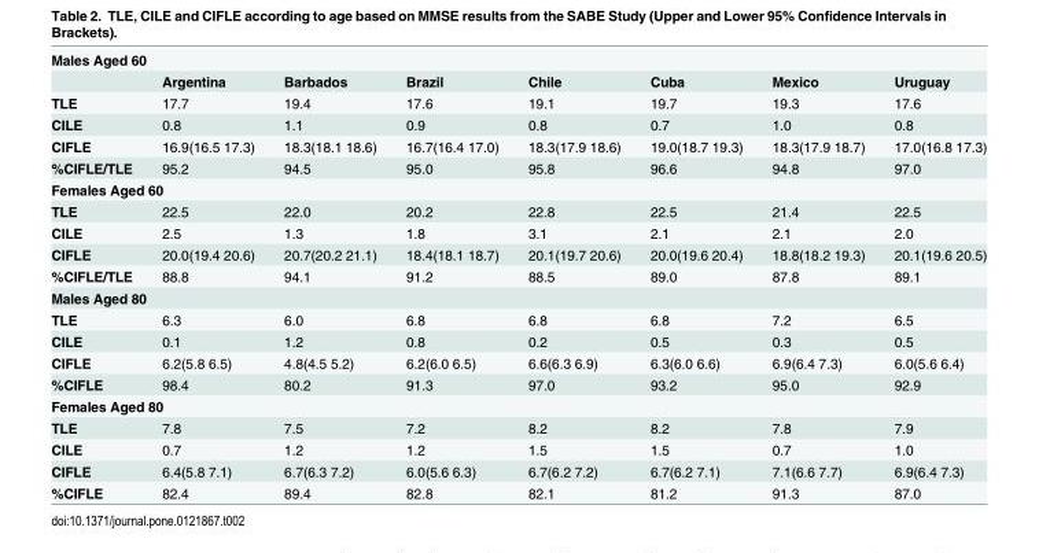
<table><tbody><tr><td colspan="8">Males Aged 60</td></tr><tr><td></td><td>Argentina</td><td>Barbados</td><td>Brazil</td><td>Chile</td><td>Cuba</td><td>Mexico</td><td>Uruguay</td></tr><tr><td>TLE</td><td>17.7</td><td>19.4</td><td>17.6</td><td>19.1</td><td>19.7</td><td>19.3</td><td>17.6</td></tr><tr><td>CILE</td><td>0.8</td><td>1.1</td><td>0.9</td><td>0.8</td><td>0.7</td><td>1.0</td><td>0.8</td></tr><tr><td>CIFLE</td><td>16.9(16.5 17.3)</td><td>18.3(18.1 18.6)</td><td>16.7(16.4 17.0)</td><td>18.3(17.9 18.6)</td><td>19.0(18.7 19.3)</td><td>18.3(17.9 18.7)</td><td>17.0(16.8 17.3)</td></tr><tr><td>%CIFLE/TLE</td><td>95.2</td><td>94.5</td><td>95.0</td><td>95.8</td><td>96.6</td><td>94.8</td><td>97.0</td></tr><tr><td colspan="8">Females Aged 60</td></tr><tr><td>TLE</td><td>22.5</td><td>22.0</td><td>20.2</td><td>22.8</td><td>22.5</td><td>21.4</td><td>22.5</td></tr><tr><td>CILE</td><td>2.5</td><td>1.3</td><td>1.8</td><td>3.1</td><td>2.1</td><td>2.1</td><td>2.0</td></tr><tr><td>CIFLE</td><td>20.0(19.4 20.6)</td><td>20.7(20.2 21.1)</td><td>18.4(18.1 18.7)</td><td>20.1(19.7 20.6)</td><td>20.0(19.6 20.4)</td><td>18.8(18.2 19.3)</td><td>20.1(19.6 20.5)</td></tr><tr><td>%CIFLE/TLE</td><td>88.8</td><td>94.1</td><td>91.2</td><td>88.5</td><td>89.0</td><td>87.8</td><td>89.1</td></tr><tr><td colspan="8">Males Aged 80</td></tr><tr><td>TLE</td><td>6.3</td><td>6.0</td><td>6.8</td><td>6.8</td><td>6.8</td><td>7.2</td><td>6.5</td></tr><tr><td>CILE</td><td>0.1</td><td>1.2</td><td>0.8</td><td>0.2</td><td>0.5</td><td>0.3</td><td>0.5</td></tr><tr><td>CIFLE</td><td>6.2(5.8 6.5)</td><td>4.8(4.5 5.2)</td><td>6.2(6.0 6.5)</td><td>6.6(6.3 6.9)</td><td>6.3(6.0 6.6)</td><td>6.9(6.4 7.3)</td><td>6.0(5.6 6.4)</td></tr><tr><td>%CIFLE</td><td>98.4</td><td>80.2</td><td>91.3</td><td>97.0</td><td>93.2</td><td>95.0</td><td>92.9</td></tr><tr><td colspan="8">Females Aged 80</td></tr><tr><td>TLE</td><td>7.8</td><td>7.5</td><td>7.2</td><td>8.2</td><td>8.2</td><td>7.8</td><td>7.9</td></tr><tr><td>CILE</td><td>0.7</td><td>1.2</td><td>1.2</td><td>1.5</td><td>1.5</td><td>0.7</td><td>1.0</td></tr><tr><td>CIFLE</td><td>6.4(5.8 7.1)</td><td>6.7(6.3 7.2)</td><td>6.0(5.6 6.3)</td><td>6.7(6.2 7.2)</td><td>6.7(6.2 7.1)</td><td>7.1(6.6 7.7)</td><td>6.9(6.4 7.3)</td></tr><tr><td>%CIFLE</td><td>82.4</td><td>89.4</td><td>82.8</td><td>82.1</td><td>81.2</td><td>91.3</td><td>87.0</td></tr></tbody></table>